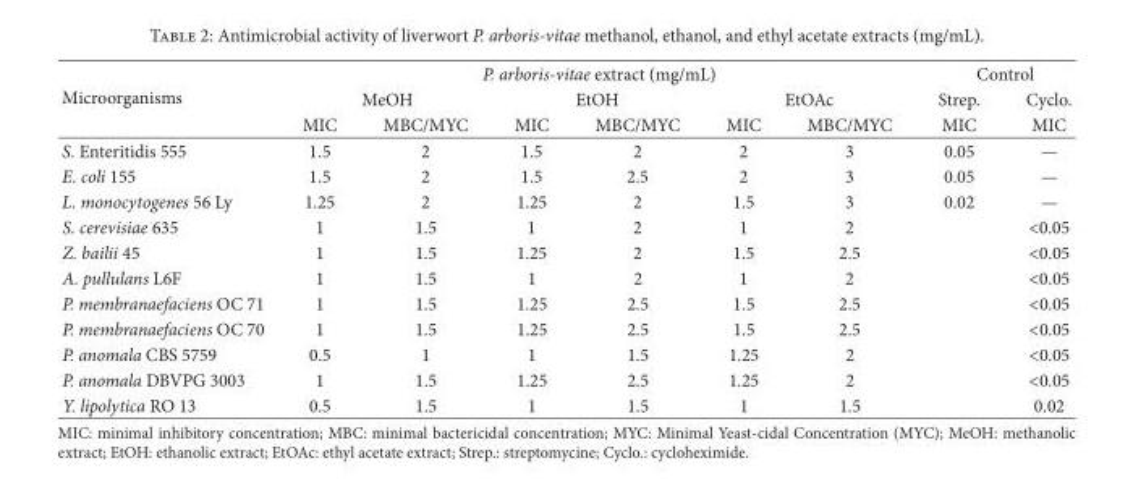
<table><thead><tr><td rowspan="3">Microorganisms</td><td colspan="6">P. arboris-vitae extract (mg/mL)</td><td colspan="2">Control</td></tr><tr><td colspan="2">MeOH</td><td colspan="2">EtOH</td><td colspan="2">EtOAc</td><td rowspan="2">Strep. MIC</td><td rowspan="2">Cyclo. MIC</td></tr><tr><td>MIC</td><td>MBC/MYC</td><td>MIC</td><td>MBC/MYC</td><td>MIC</td><td>MBC/MYC</td></tr></thead><tbody><tr><td>S. Enteritidis 555</td><td>1.5</td><td>2</td><td>1.5</td><td>2</td><td>2</td><td>3</td><td>0.05</td><td>—</td></tr><tr><td>E. coli 155</td><td>1.5</td><td>2</td><td>1.5</td><td>2.5</td><td>2</td><td>3</td><td>0.05</td><td>—</td></tr><tr><td>L. monocytogenes 56 Ly</td><td>1.25</td><td>2</td><td>1.25</td><td>2</td><td>1.5</td><td>3</td><td>0.02</td><td>—</td></tr><tr><td>S. cerevisiae 635</td><td>1</td><td>1.5</td><td>1</td><td>2</td><td>1</td><td>2</td><td></td><td>&lt;0.05</td></tr><tr><td>Z. bailii 45</td><td>1</td><td>1.5</td><td>1.25</td><td>2</td><td>1.5</td><td>2.5</td><td></td><td>&lt;0.05</td></tr><tr><td>A. pullulans L6F</td><td>1</td><td>1.5</td><td>1</td><td>2</td><td>1</td><td>2</td><td></td><td>&lt;0.05</td></tr><tr><td>P. membranaefaciens OC 71</td><td>1</td><td>1.5</td><td>1.25</td><td>2.5</td><td>1.5</td><td>2.5</td><td></td><td>&lt;0.05</td></tr><tr><td>P. membranaefaciens OC 70</td><td>1</td><td>1.5</td><td>1.25</td><td>2.5</td><td>1.5</td><td>2.5</td><td></td><td>&lt;0.05</td></tr><tr><td>P. anomala CBS 5759</td><td>0.5</td><td>1</td><td>1</td><td>1.5</td><td>1.25</td><td>2</td><td></td><td>&lt;0.05</td></tr><tr><td>P. anomala DBVPG 3003</td><td>1</td><td>1.5</td><td>1.25</td><td>2.5</td><td>1.25</td><td>2</td><td></td><td>&lt;0.05</td></tr><tr><td>Y. lipolytica RO 13</td><td>0.5</td><td>1.5</td><td>1</td><td>1.5</td><td>1</td><td>1.5</td><td></td><td>0.02</td></tr></tbody></table>